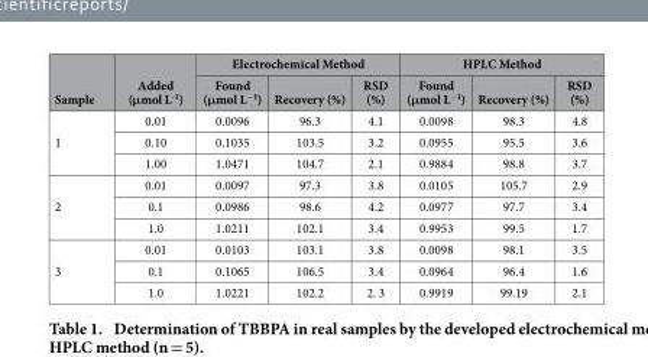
<table><thead><tr><td rowspan="2">Sample</td><td rowspan="2">Added (μmol L<sup>-1</sup>)</td><td colspan="3">Electrochemical Method</td><td colspan="3">HPLC Method</td></tr><tr><td>Found (μmol L<sup>−1</sup>)</td><td>Recovery (%)</td><td>RSD (%)</td><td>Found (μmol L<sup>−1</sup>)</td><td>Recovery (%)</td><td>RSD (%)</td></tr></thead><tbody><tr><td rowspan="3">1</td><td>0.01</td><td>0.0096</td><td>96.3</td><td>4.1</td><td>0.0098</td><td>98.3</td><td>4.8</td></tr><tr><td>0.10</td><td>0.1035</td><td>103.5</td><td>3.2</td><td>0.0955</td><td>95.5</td><td>3.6</td></tr><tr><td>1.00</td><td>1.0471</td><td>104.7</td><td>2.1</td><td>0.9884</td><td>98.8</td><td>3.7</td></tr><tr><td rowspan="3">2</td><td>0.01</td><td>0.0097</td><td>97.3</td><td>3.8</td><td>0.0105</td><td>105.7</td><td>2.9</td></tr><tr><td>0.1</td><td>0.0986</td><td>98.6</td><td>4.2</td><td>0.0977</td><td>97.7</td><td>3.4</td></tr><tr><td>1.0</td><td>1.0211</td><td>102.1</td><td>3.4</td><td>0.9953</td><td>99.5</td><td>1.7</td></tr><tr><td rowspan="3">3</td><td>0.01</td><td>0.0103</td><td>103.1</td><td>3.8</td><td>0.0098</td><td>98.1</td><td>3.5</td></tr><tr><td>0.1</td><td>0.1065</td><td>106.5</td><td>3.4</td><td>0.0964</td><td>96.4</td><td>1.6</td></tr><tr><td>1.0</td><td>1.0221</td><td>102.2</td><td>2. 3</td><td>0.9919</td><td>99.19</td><td>2.1</td></tr></tbody></table>